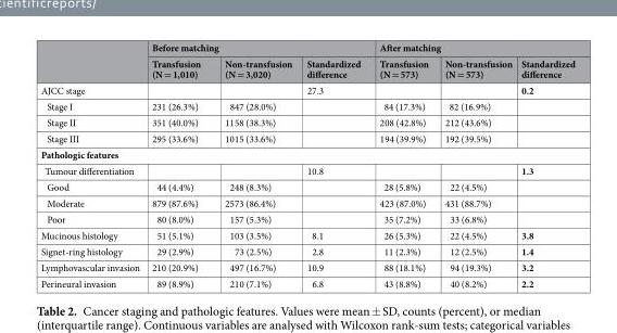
<table><thead><tr><td rowspan="2"></td><td colspan="3">Before matching</td><td colspan="3">After matching</td></tr><tr><td>Transfusion (N = 1,010)</td><td>Non-transfusion (N = 3,020)</td><td>Standardized difference</td><td>Transfusion (N = 573)</td><td>Non-transfusion (N = 573)</td><td>Standardized difference</td></tr></thead><tbody><tr><td>AJCC stage</td><td></td><td></td><td>27.3</td><td></td><td></td><td>0.2</td></tr><tr><td>Stage I</td><td>231 (26.3%)</td><td>847 (28.0%)</td><td></td><td>84 (17.3%)</td><td>82 (16.9%)</td><td></td></tr><tr><td>Stage II</td><td>351 (40.0%)</td><td>1158 (38.3%)</td><td></td><td>208 (42.8%)</td><td>212 (43.6%)</td><td></td></tr><tr><td>Stage III</td><td>295 (33.6%)</td><td>1015 (33.6%)</td><td></td><td>194 (39.9%)</td><td>192 (39.5%)</td><td></td></tr><tr><td colspan="7">Pathologic features</td></tr><tr><td>Tumour differentiation</td><td></td><td></td><td>10.8</td><td></td><td></td><td>1.3</td></tr><tr><td>Good</td><td>44 (4.4%)</td><td>248 (8.3%)</td><td></td><td>28 (5.8%)</td><td>22 (4.5%)</td><td></td></tr><tr><td>Moderate</td><td>879 (87.6%)</td><td>2573 (86.4%)</td><td></td><td>423 (87.0%)</td><td>431 (88.7%)</td><td></td></tr><tr><td>Poor</td><td>80 (8.0%)</td><td>157 (5.3%)</td><td></td><td>35 (7.2%)</td><td>33 (6.8%)</td><td></td></tr><tr><td>Mucinous histology</td><td>51 (5.1%)</td><td>103 (3.5%)</td><td>8.1</td><td>26 (5.3%)</td><td>22 (4.5%)</td><td>3.8</td></tr><tr><td>Signet-ring histology</td><td>29 (2.9%)</td><td>73 (2.5%)</td><td>2.8</td><td>11 (2.3%)</td><td>12 (2.5%)</td><td>1.4</td></tr><tr><td>Lymphovascular invasion</td><td>210 (20.9%)</td><td>497 (16.7%)</td><td>10.9</td><td>88 (18.1%)</td><td>94 (19.3%)</td><td>3.2</td></tr><tr><td>Perineural invasion</td><td>89 (8.9%)</td><td>210 (7.1%)</td><td>6.8</td><td>43 (8.8%)</td><td>40 (8.2%)</td><td>2.2</td></tr></tbody></table>